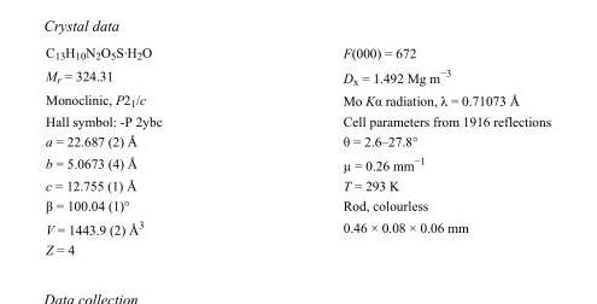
<table><tbody><tr><td>C<sub>13</sub>H<sub>10</sub>N<sub>2</sub>O<sub>5</sub>S·H<sub>2</sub>O</td><td>F(000) = 672</td></tr><tr><td>M<sub>r</sub> = 324.31</td><td>D<sub>x</sub> = 1.492 Mg m<sup>−3</sup></td></tr><tr><td>Monoclinic, P2<sub>1</sub>/c</td><td>Mo Kα radiation, λ = 0.71073 Å</td></tr><tr><td>Hall symbol: -P 2ybc</td><td>Cell parameters from 1916 reflections</td></tr><tr><td>a = 22.687 (2) Å</td><td>θ = 2.6–27.8°</td></tr><tr><td>b = 5.0673 (4) Å</td><td>µ = 0.26 mm<sup>−1</sup></td></tr><tr><td>c = 12.755 (1) Å</td><td>T = 293 K</td></tr><tr><td>β = 100.04 (1)°</td><td>Rod, colourless</td></tr><tr><td>V = 1443.9 (2) Å<sup>3</sup></td><td>0.46 × 0.08 × 0.06 mm</td></tr><tr><td>Z = 4</td><td></td></tr></tbody></table>